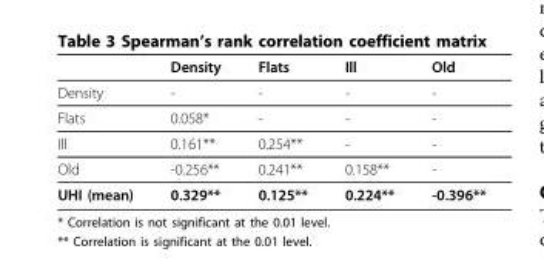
<table><thead><tr><td></td><td>Density</td><td>Flats</td><td>Ill</td><td>Old</td></tr></thead><tbody><tr><td>Density</td><td>-</td><td>-</td><td>-</td><td>-</td></tr><tr><td>Flats</td><td>0.058*</td><td>-</td><td>-</td><td>-</td></tr><tr><td>Ill</td><td>0.161**</td><td>0.254**</td><td>-</td><td>-</td></tr><tr><td>Old</td><td>-0.256**</td><td>0.241**</td><td>0.158**</td><td>-</td></tr><tr><td>UHI (mean)</td><td>0.329**</td><td>0.125**</td><td>0.224**</td><td>-0.396**</td></tr></tbody></table>